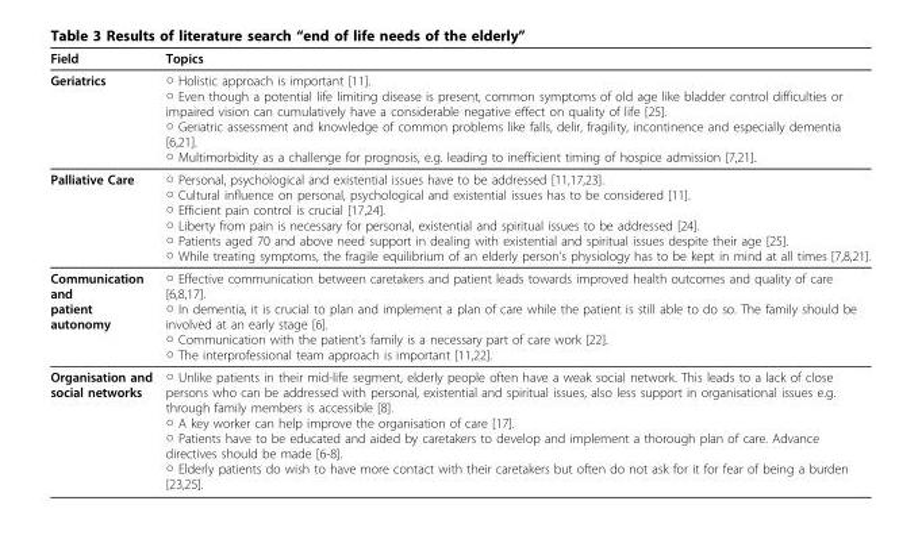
<table><thead><tr><td>Field</td><td>Topics</td></tr></thead><tbody><tr><td>Geriatrics</td><td>○ Holistic approach is important [11]. ○ Even though a potential life limiting disease is present, common symptoms of old age like bladder control difficulties or impaired vision can cumulatively have a considerable negative effect on quality of life [25]. ○ Geriatric assessment and knowledge of common problems like falls, delir, fragility, incontinence and especially dementia [6,21]. ○ Multimorbidity as a challenge for prognosis, e.g. leading to inefficient timing of hospice admission [7,21].</td></tr><tr><td>Palliative Care</td><td>○ Personal, psychological and existential issues have to be addressed [11,17,23]. ○ Cultural influence on personal, psychological and existential issues has to be considered [11]. ○ Efficient pain control is crucial [17,24]. ○ Liberty from pain is necessary for personal, existential and spiritual issues to be addressed [24]. ○ Patients aged 70 and above need support in dealing with existential and spiritual issues despite their age [25]. ○ While treating symptoms, the fragile equilibrium of an elderly person’s physiology has to be kept in mind at all times [7,8,21].</td></tr><tr><td>Communication and patient autonomy</td><td>○ Effective communication between caretakers and patient leads towards improved health outcomes and quality of care [6,8,17]. ○ In dementia, it is crucial to plan and implement a plan of care while the patient is still able to do so. The family should be involved at an early stage [6]. ○ Communication with the patient’s family is a necessary part of care work [22]. ○ The interprofessional team approach is important [11,22].</td></tr><tr><td>Organisation and social networks</td><td>○ Unlike patients in their mid-life segment, elderly people often have a weak social network. This leads to a lack of close persons who can be addressed with personal, existential and spiritual issues, also less support in organisational issues e.g. through family members is accessible [8]. ○ A key worker can help improve the organisation of care [17]. ○ Patients have to be educated and aided by caretakers to develop and implement a thorough plan of care. Advance directives should be made [6-8]. ○ Elderly patients do wish to have more contact with their caretakers but often do not ask for it for fear of being a burden [23,25].</td></tr></tbody></table>